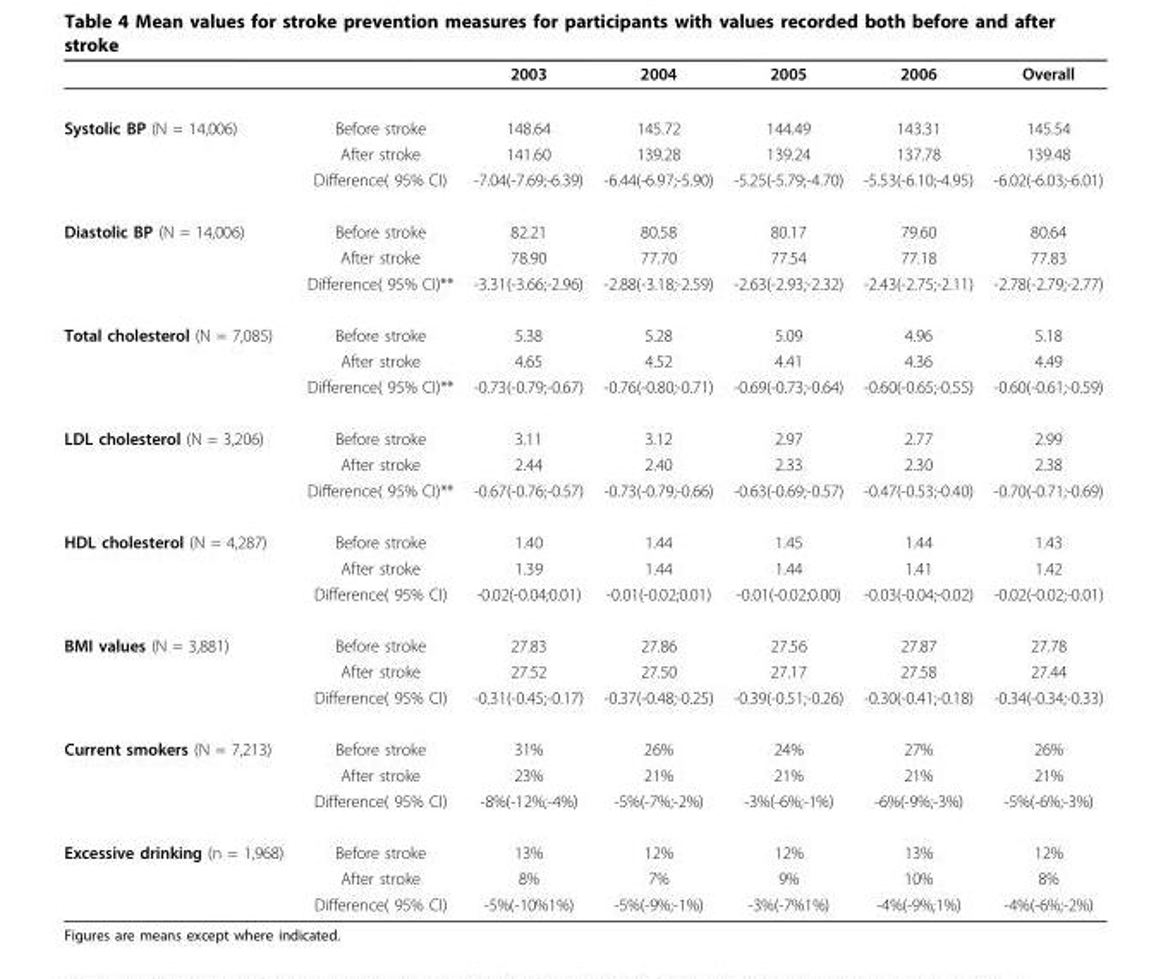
<table><thead><tr><td></td><td></td><td>2003</td><td>2004</td><td>2005</td><td>2006</td><td>Overall</td></tr></thead><tbody><tr><td rowspan="3">Systolic BP (N = 14,006)</td><td>Before stroke</td><td>148.64</td><td>145.72</td><td>144.49</td><td>143.31</td><td>145.54</td></tr><tr><td>After stroke</td><td>141.60</td><td>139.28</td><td>139.24</td><td>137.78</td><td>139.48</td></tr><tr><td>Difference( 95% CI)</td><td>-7.04(-7.69;-6.39)</td><td>-6.44(-6.97;-5.90)</td><td>-5.25(-5.79;-4.70)</td><td>-5.53(-6.10;-4.95)</td><td>-6.02(-6.03;-6.01)</td></tr><tr><td rowspan="3">Diastolic BP (N = 14,006)</td><td>Before stroke</td><td>82.21</td><td>80.58</td><td>80.17</td><td>79.60</td><td>80.64</td></tr><tr><td>After stroke</td><td>78.90</td><td>77.70</td><td>77.54</td><td>77.18</td><td>77.83</td></tr><tr><td>Difference( 95% CI)**</td><td>-3.31(-3.66;-2.96)</td><td>-2.88(-3.18;-2.59)</td><td>-2.63(-2.93;-2.32)</td><td>-2.43(-2.75;-2.11)</td><td>-2.78(-2.79;-2.77)</td></tr><tr><td rowspan="3">Total cholesterol (N = 7,085)</td><td>Before stroke</td><td>5.38</td><td>5.28</td><td>5.09</td><td>4.96</td><td>5.18</td></tr><tr><td>After stroke</td><td>4.65</td><td>4.52</td><td>4.41</td><td>4.36</td><td>4.49</td></tr><tr><td>Difference( 95% CI)**</td><td>-0.73(-0.79;-0.67)</td><td>-0.76(-0.80;-0.71)</td><td>-0.69(-0.73;-0.64)</td><td>-0.60(-0.65;-0.55)</td><td>-0.60(-0.61;-0.59)</td></tr><tr><td rowspan="3">LDL cholesterol (N = 3,206)</td><td>Before stroke</td><td>3.11</td><td>3.12</td><td>2.97</td><td>2.77</td><td>2.99</td></tr><tr><td>After stroke</td><td>2.44</td><td>2.40</td><td>2.33</td><td>2.30</td><td>2.38</td></tr><tr><td>Difference( 95% CI)**</td><td>-0.67(-0.76;-0.57)</td><td>-0.73(-0.79;-0.66)</td><td>-0.63(-0.69;-0.57)</td><td>-0.47(-0.53;-0.40)</td><td>-0.70(-0.71;-0.69)</td></tr><tr><td rowspan="3">HDL cholesterol (N = 4,287)</td><td>Before stroke</td><td>1.40</td><td>1.44</td><td>1.45</td><td>1.44</td><td>1.43</td></tr><tr><td>After stroke</td><td>1.39</td><td>1.44</td><td>1.44</td><td>1.41</td><td>1.42</td></tr><tr><td>Difference( 95% CI)</td><td>-0.02(-0.04;0.01)</td><td>-0.01(-0.02;0.01)</td><td>-0.01(-0.02;0.00)</td><td>-0.03(-0.04;-0.02)</td><td>-0.02(-0.02;-0.01)</td></tr><tr><td rowspan="3">BMI values (N = 3,881)</td><td>Before stroke</td><td>27.83</td><td>27.86</td><td>27.56</td><td>27.87</td><td>27.78</td></tr><tr><td>After stroke</td><td>27.52</td><td>27.50</td><td>27.17</td><td>27.58</td><td>27.44</td></tr><tr><td>Difference( 95% CI)</td><td>-0.31(-0.45;-0.17)</td><td>-0.37(-0.48;-0.25)</td><td>-0.39(-0.51;-0.26)</td><td>-0.30(-0.41;-0.18)</td><td>-0.34(-0.34;-0.33)</td></tr><tr><td rowspan="3">Current smokers (N = 7,213)</td><td>Before stroke</td><td>31%</td><td>26%</td><td>24%</td><td>27%</td><td>26%</td></tr><tr><td>After stroke</td><td>23%</td><td>21%</td><td>21%</td><td>21%</td><td>21%</td></tr><tr><td>Difference( 95% CI)</td><td>-8%(-12%;-4%)</td><td>-5%(-7%;-2%)</td><td>-3%(-6%;-1%)</td><td>-6%(-9%;-3%)</td><td>-5%(-6%;-3%)</td></tr><tr><td rowspan="3">Excessive drinking (n = 1,968)</td><td>Before stroke</td><td>13%</td><td>12%</td><td>12%</td><td>13%</td><td>12%</td></tr><tr><td>After stroke</td><td>8%</td><td>7%</td><td>9%</td><td>10%</td><td>8%</td></tr><tr><td>Difference( 95% CI)</td><td>-5%(-10%1%)</td><td>-5%(-9%;-1%)</td><td>-3%(-7%1%)</td><td>-4%(-9%;1%)</td><td>-4%(-6%;-2%)</td></tr></tbody></table>